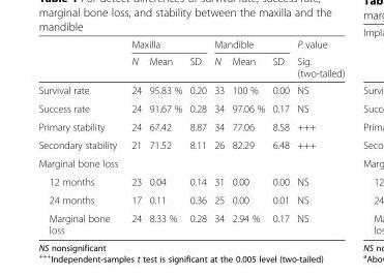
<table><thead><tr><td rowspan="2"></td><td colspan="3">Maxilla</td><td colspan="3">Mandible</td><td rowspan="2">P value Sig. (two-tailed)</td></tr><tr><td>N</td><td>Mean</td><td>SD</td><td>N</td><td>Mean</td><td>SD</td></tr></thead><tbody><tr><td>Survival rate</td><td>24</td><td>95.83 %</td><td>0.20</td><td>33</td><td>100 %</td><td>0.00</td><td>NS</td></tr><tr><td>Success rate</td><td>24</td><td>91.67 %</td><td>0.28</td><td>34</td><td>97.06 %</td><td>0.17</td><td>NS</td></tr><tr><td>Primary stability</td><td>24</td><td>67.42</td><td>8.87</td><td>34</td><td>77.06</td><td>8.58</td><td>+++</td></tr><tr><td>Secondary stability</td><td>21</td><td>71.52</td><td>8.11</td><td>26</td><td>82.29</td><td>6.48</td><td>+++</td></tr><tr><td colspan="8">Marginal bone loss</td></tr><tr><td>12 months</td><td>23</td><td>0.04</td><td>0.14</td><td>31</td><td>0.00</td><td>0.00</td><td>NS</td></tr><tr><td>24 months</td><td>17</td><td>0.11</td><td>0.36</td><td>25</td><td>0.00</td><td>0.01</td><td>NS</td></tr><tr><td>Marginal bone loss</td><td>24</td><td>8.33 %</td><td>0.28</td><td>34</td><td>2.94 %</td><td>0.17</td><td>NS</td></tr></tbody></table>